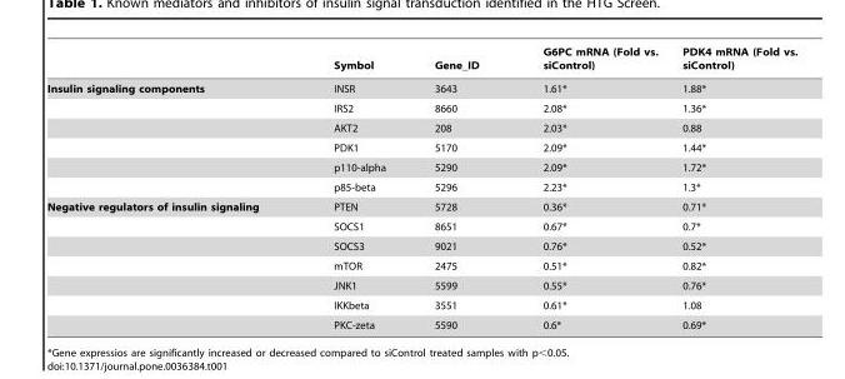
<table><thead><tr><td></td><td>Symbol</td><td>Gene_ID</td><td>G6PC mRNA (Fold vs. siControl)</td><td>PDK4 mRNA (Fold vs. siControl)</td></tr></thead><tbody><tr><td rowspan="6">Insulin signaling components</td><td>INSR</td><td>3643</td><td>1.61*</td><td>1.88*</td></tr><tr><td>IRS2</td><td>8660</td><td>2.08*</td><td>1.36*</td></tr><tr><td>AKT2</td><td>208</td><td>2.03*</td><td>0.88</td></tr><tr><td>PDK1</td><td>5170</td><td>2.09*</td><td>1.44*</td></tr><tr><td>p110-alpha</td><td>5290</td><td>2.09*</td><td>1.72*</td></tr><tr><td>p85-beta</td><td>5296</td><td>2.23*</td><td>1.3*</td></tr><tr><td rowspan="7">Negative regulators of insulin signaling</td><td>PTEN</td><td>5728</td><td>0.36*</td><td>0.71*</td></tr><tr><td>SOCS1</td><td>8651</td><td>0.67*</td><td>0.7*</td></tr><tr><td>SOCS3</td><td>9021</td><td>0.76*</td><td>0.52*</td></tr><tr><td>mTOR</td><td>2475</td><td>0.51*</td><td>0.82*</td></tr><tr><td>JNK1</td><td>5599</td><td>0.55*</td><td>0.76*</td></tr><tr><td>IKKbeta</td><td>3551</td><td>0.61*</td><td>1.08</td></tr><tr><td>PKC-zeta</td><td>5590</td><td>0.6*</td><td>0.69*</td></tr></tbody></table>